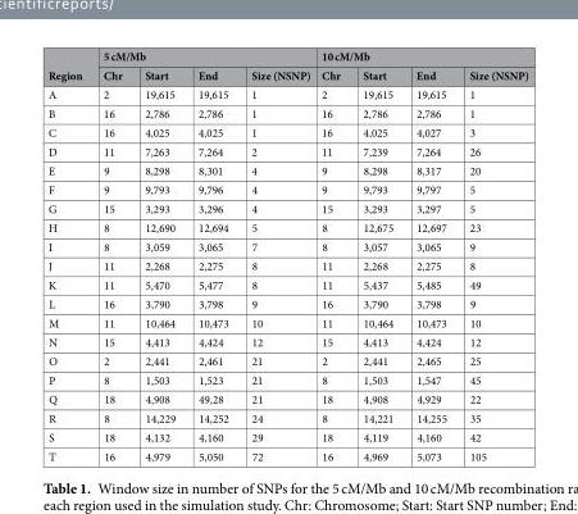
<table><thead><tr><td rowspan="2">Region</td><td colspan="4">5 cM/Mb</td><td colspan="4">10 cM/Mb</td></tr><tr><td>Chr</td><td>Start</td><td>End</td><td>Size (NSNP)</td><td>Chr</td><td>Start</td><td>End</td><td>Size (NSNP)</td></tr></thead><tbody><tr><td>A</td><td>2</td><td>19,615</td><td>19,615</td><td>1</td><td>2</td><td>19,615</td><td>19,615</td><td>1</td></tr><tr><td>B</td><td>16</td><td>2,786</td><td>2,786</td><td>1</td><td>16</td><td>2,786</td><td>2,786</td><td>1</td></tr><tr><td>C</td><td>16</td><td>4,025</td><td>4,025</td><td>1</td><td>16</td><td>4,025</td><td>4,027</td><td>3</td></tr><tr><td>D</td><td>11</td><td>7,263</td><td>7,264</td><td>2</td><td>11</td><td>7,239</td><td>7,264</td><td>26</td></tr><tr><td>E</td><td>9</td><td>8,298</td><td>8,301</td><td>4</td><td>9</td><td>8,298</td><td>8,317</td><td>20</td></tr><tr><td>F</td><td>9</td><td>9,793</td><td>9,796</td><td>4</td><td>9</td><td>9,793</td><td>9,797</td><td>5</td></tr><tr><td>G</td><td>15</td><td>3,293</td><td>3,296</td><td>4</td><td>15</td><td>3,293</td><td>3,297</td><td>5</td></tr><tr><td>H</td><td>8</td><td>12,690</td><td>12,694</td><td>5</td><td>8</td><td>12,675</td><td>12,697</td><td>23</td></tr><tr><td>I</td><td>8</td><td>3,059</td><td>3,065</td><td>7</td><td>8</td><td>3,057</td><td>3,065</td><td>9</td></tr><tr><td>J</td><td>11</td><td>2,268</td><td>2,275</td><td>8</td><td>11</td><td>2,268</td><td>2,275</td><td>8</td></tr><tr><td>K</td><td>11</td><td>5,470</td><td>5,477</td><td>8</td><td>11</td><td>5,437</td><td>5,485</td><td>49</td></tr><tr><td>L</td><td>16</td><td>3,790</td><td>3,798</td><td>9</td><td>16</td><td>3,790</td><td>3,798</td><td>9</td></tr><tr><td>M</td><td>11</td><td>10,464</td><td>10,473</td><td>10</td><td>11</td><td>10,464</td><td>10,473</td><td>10</td></tr><tr><td>N</td><td>15</td><td>4,413</td><td>4,424</td><td>12</td><td>15</td><td>4,413</td><td>4,424</td><td>12</td></tr><tr><td>O</td><td>2</td><td>2,441</td><td>2,461</td><td>21</td><td>2</td><td>2,441</td><td>2,465</td><td>25</td></tr><tr><td>P</td><td>8</td><td>1,503</td><td>1,523</td><td>21</td><td>8</td><td>1,503</td><td>1,547</td><td>45</td></tr><tr><td>Q</td><td>18</td><td>4,908</td><td>49,28</td><td>21</td><td>18</td><td>4,908</td><td>4,929</td><td>22</td></tr><tr><td>R</td><td>8</td><td>14,229</td><td>14,252</td><td>24</td><td>8</td><td>14,221</td><td>14,255</td><td>35</td></tr><tr><td>S</td><td>18</td><td>4,132</td><td>4,160</td><td>29</td><td>18</td><td>4,119</td><td>4,160</td><td>42</td></tr><tr><td>T</td><td>16</td><td>4,979</td><td>5,050</td><td>72</td><td>16</td><td>4,969</td><td>5,073</td><td>105</td></tr></tbody></table>